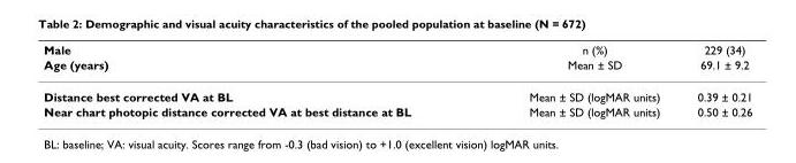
<table><thead><tr><td rowspan="2">Male Age (years)</td><td rowspan="2">n (%) Mean ± SD</td><td rowspan="2">229 (34) 69.1 ± 9.2</td></tr><tr></tr></thead><tbody><tr><td>Distance best corrected VA at BL</td><td>Mean ± SD (logMAR units)</td><td>0.39 ± 0.21</td></tr><tr><td>Near chart photopic distance corrected VA at best distance at BL</td><td>Mean ± SD (logMAR units)</td><td>0.50 ± 0.26</td></tr></tbody></table>